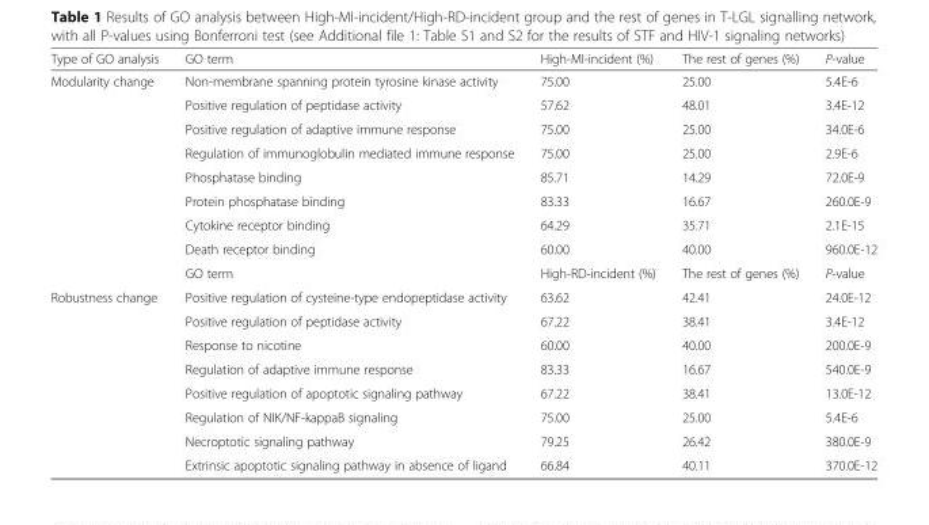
<table><thead><tr><td>Type of GO analysis</td><td>GO term</td><td>High-MI-incident (%)</td><td>The rest of genes (%)</td><td>P-value</td></tr></thead><tbody><tr><td rowspan="9">Modularity change</td><td>Non-membrane spanning protein tyrosine kinase activity</td><td>75.00</td><td>25.00</td><td>5.4E-6</td></tr><tr><td>Positive regulation of peptidase activity</td><td>57.62</td><td>48.01</td><td>3.4E-12</td></tr><tr><td>Positive regulation of adaptive immune response</td><td>75.00</td><td>25.00</td><td>34.0E-6</td></tr><tr><td>Regulation of immunoglobulin mediated immune response</td><td>75.00</td><td>25.00</td><td>2.9E-6</td></tr><tr><td>Phosphatase binding</td><td>85.71</td><td>14.29</td><td>72.0E-9</td></tr><tr><td>Protein phosphatase binding</td><td>83.33</td><td>16.67</td><td>260.0E-9</td></tr><tr><td>Cytokine receptor binding</td><td>64.29</td><td>35.71</td><td>2.1E-15</td></tr><tr><td>Death receptor binding</td><td>60.00</td><td>40.00</td><td>960.0E-12</td></tr><tr><td>GO term</td><td>High-RD-incident (%)</td><td>The rest of genes (%)</td><td>P-value</td></tr><tr><td rowspan="8">Robustness change</td><td>Positive regulation of cysteine-type endopeptidase activity</td><td>63.62</td><td>42.41</td><td>24.0E-12</td></tr><tr><td>Positive regulation of peptidase activity</td><td>67.22</td><td>38.41</td><td>3.4E-12</td></tr><tr><td>Response to nicotine</td><td>60.00</td><td>40.00</td><td>200.0E-9</td></tr><tr><td>Regulation of adaptive immune response</td><td>83.33</td><td>16.67</td><td>540.0E-9</td></tr><tr><td>Positive regulation of apoptotic signaling pathway</td><td>67.22</td><td>38.41</td><td>13.0E-12</td></tr><tr><td>Regulation of NIK/NF-kappaB signaling</td><td>75.00</td><td>25.00</td><td>5.4E-6</td></tr><tr><td>Necroptotic signaling pathway</td><td>79.25</td><td>26.42</td><td>380.0E-9</td></tr><tr><td>Extrinsic apoptotic signaling pathway in absence of ligand</td><td>66.84</td><td>40.11</td><td>370.0E-12</td></tr></tbody></table>